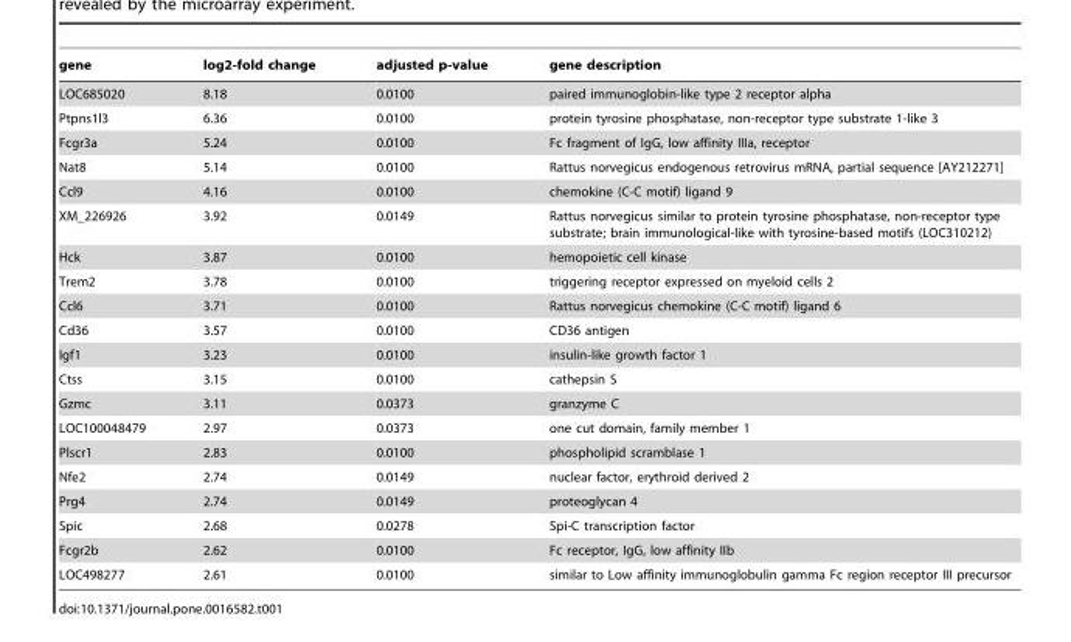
<table><thead><tr><td>gene</td><td>log2-fold change</td><td>adjusted p-value</td><td>gene description</td></tr></thead><tbody><tr><td>LOC685020</td><td>8.18</td><td>0.0100</td><td>paired immunoglobin-like type 2 receptor alpha</td></tr><tr><td>Ptpns1l3</td><td>6.36</td><td>0.0100</td><td>protein tyrosine phosphatase, non-receptor type substrate 1-like 3</td></tr><tr><td>Fcgr3a</td><td>5.24</td><td>0.0100</td><td>Fc fragment of IgG, low affinity IIIa, receptor</td></tr><tr><td>Nat8</td><td>5.14</td><td>0.0100</td><td>Rattus norvegicus endogenous retrovirus mRNA, partial sequence [AY212271]</td></tr><tr><td>Ccl9</td><td>4.16</td><td>0.0100</td><td>chemokine (C-C motif) ligand 9</td></tr><tr><td>XM_226926</td><td>3.92</td><td>0.0149</td><td>Rattus norvegicus similar to protein tyrosine phosphatase, non-receptor type substrate; brain immunological-like with tyrosine-based motifs (LOC310212)</td></tr><tr><td>Hck</td><td>3.87</td><td>0.0100</td><td>hemopoietic cell kinase</td></tr><tr><td>Trem2</td><td>3.78</td><td>0.0100</td><td>triggering receptor expressed on myeloid cells 2</td></tr><tr><td>Ccl6</td><td>3.71</td><td>0.0100</td><td>Rattus norvegicus chemokine (C-C motif) ligand 6</td></tr><tr><td>Cd36</td><td>3.57</td><td>0.0100</td><td>CD36 antigen</td></tr><tr><td>Igf1</td><td>3.23</td><td>0.0100</td><td>insulin-like growth factor 1</td></tr><tr><td>Ctss</td><td>3.15</td><td>0.0100</td><td>cathepsin S</td></tr><tr><td>Gzmc</td><td>3.11</td><td>0.0373</td><td>granzyme C</td></tr><tr><td>LOC100048479</td><td>2.97</td><td>0.0373</td><td>one cut domain, family member 1</td></tr><tr><td>Plscr1</td><td>2.83</td><td>0.0100</td><td>phospholipid scramblase 1</td></tr><tr><td>Nfe2</td><td>2.74</td><td>0.0149</td><td>nuclear factor, erythroid derived 2</td></tr><tr><td>Prg4</td><td>2.74</td><td>0.0149</td><td>proteoglycan 4</td></tr><tr><td>Spic</td><td>2.68</td><td>0.0278</td><td>Spi-C transcription factor</td></tr><tr><td>Fcgr2b</td><td>2.62</td><td>0.0100</td><td>Fc receptor, IgG, low affinity IIb</td></tr><tr><td>LOC498277</td><td>2.61</td><td>0.0100</td><td>similar to Low affinity immunoglobulin gamma Fc region receptor III precursor</td></tr></tbody></table>